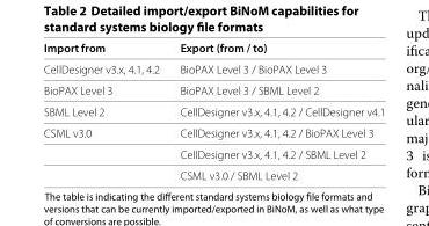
<table><thead><tr><td>Import from</td><td>Export (from / to)</td></tr></thead><tbody><tr><td>CellDesigner v3.x, 4.1, 4.2</td><td>BioPAX Level 3 / BioPAX Level 3</td></tr><tr><td>BioPAX Level 3</td><td>BioPAX Level 3 / SBML Level 2</td></tr><tr><td>SBML Level 2</td><td>CellDesigner v3.x, 4.1, 4.2 / CellDesigner v4.1</td></tr><tr><td rowspan="3">CSML v3.0</td><td>CellDesigner v3.x, 4.1, 4.2 / BioPAX Level 3</td></tr><tr><td>CellDesigner v3.x, 4.1, 4.2 / SBML Level 2</td></tr><tr><td>CSML v3.0 / SBML Level 2</td></tr></tbody></table>